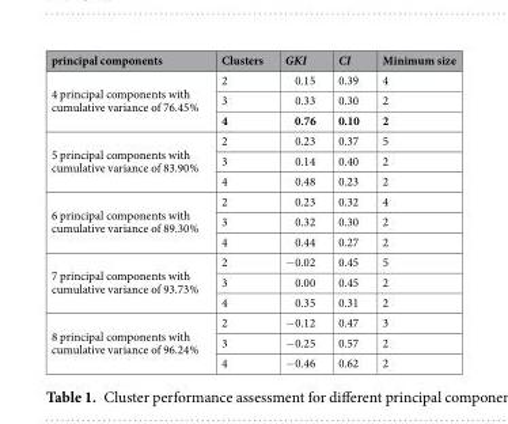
<table><thead><tr><td>principal components</td><td>Clusters</td><td>GKI</td><td>CI</td><td>Minimum size</td></tr></thead><tbody><tr><td rowspan="3">4 principal components with cumulative variance of 76.45%</td><td>2</td><td>0.15</td><td>0.39</td><td>4</td></tr><tr><td>3</td><td>0.33</td><td>0.30</td><td>2</td></tr><tr><td>4</td><td>0.76</td><td>0.10</td><td>2</td></tr><tr><td rowspan="3">5 principal components with cumulative variance of 83.90%</td><td>2</td><td>0.23</td><td>0.37</td><td>5</td></tr><tr><td>3</td><td>0.14</td><td>0.40</td><td>2</td></tr><tr><td>4</td><td>0.48</td><td>0.23</td><td>2</td></tr><tr><td rowspan="3">6 principal components with cumulative variance of 89.30%</td><td>2</td><td>0.23</td><td>0.32</td><td>4</td></tr><tr><td>3</td><td>0.32</td><td>0.30</td><td>2</td></tr><tr><td>4</td><td>0.44</td><td>0.27</td><td>2</td></tr><tr><td rowspan="3">7 principal components with cumulative variance of 93.73%</td><td>2</td><td>−0.02</td><td>0.45</td><td>5</td></tr><tr><td>3</td><td>0.00</td><td>0.45</td><td>2</td></tr><tr><td>4</td><td>0.35</td><td>0.31</td><td>2</td></tr><tr><td rowspan="3">8 principal components with cumulative variance of 96.24%</td><td>2</td><td>−0.12</td><td>0.47</td><td>3</td></tr><tr><td>3</td><td>−0.25</td><td>0.57</td><td>2</td></tr><tr><td>4</td><td>−0.46</td><td>0.62</td><td>2</td></tr></tbody></table>